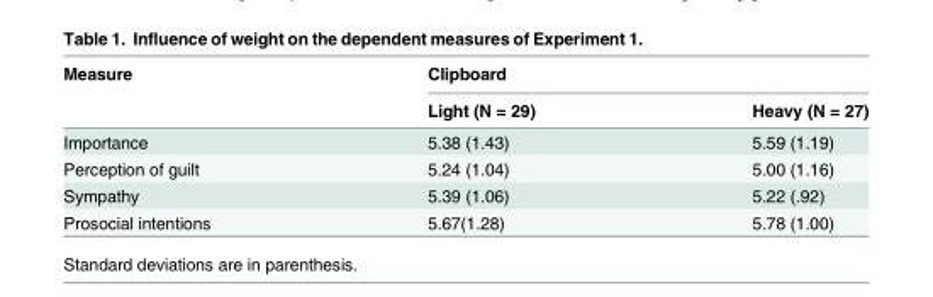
<table><thead><tr><td rowspan="2">Measure</td><td colspan="2">Clipboard</td></tr><tr><td>Light (N = 29)</td><td>Heavy (N = 27)</td></tr></thead><tbody><tr><td>Importance</td><td>5.38 (1.43)</td><td>5.59 (1.19)</td></tr><tr><td>Perception of guilt</td><td>5.24 (1.04)</td><td>5.00 (1.16)</td></tr><tr><td>Sympathy</td><td>5.39 (1.06)</td><td>5.22 (.92)</td></tr><tr><td>Prosocial intentions</td><td>5.67(1.28)</td><td>5.78 (1.00)</td></tr></tbody></table>